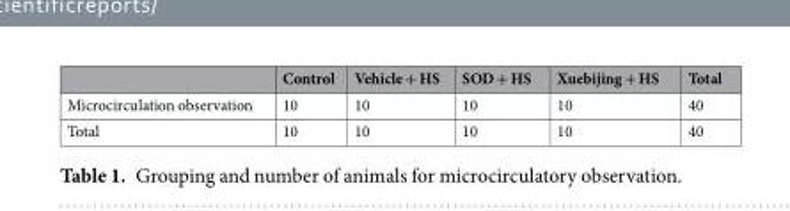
<table><thead><tr><td></td><td>Control</td><td>Vehicle + HS</td><td>SOD + HS</td><td>Xuebijing + HS</td><td>Total</td></tr></thead><tbody><tr><td>Microcirculation observation</td><td>10</td><td>10</td><td>10</td><td>10</td><td>40</td></tr><tr><td>Total</td><td>10</td><td>10</td><td>10</td><td>10</td><td>40</td></tr></tbody></table>